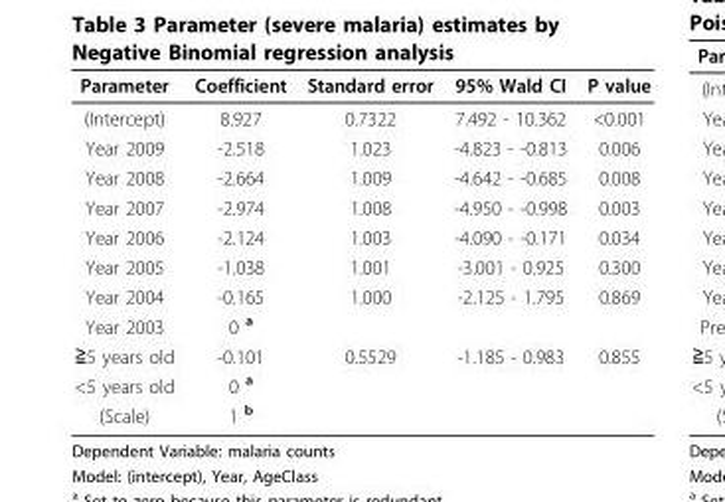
<table><thead><tr><td>Parameter</td><td>Coefficient</td><td>Standard error</td><td>95% Wald CI</td><td>P value</td></tr></thead><tbody><tr><td>(Intercept)</td><td>8.927</td><td>0.7322</td><td>7.492 - 10.362</td><td>&lt;0.001</td></tr><tr><td>Year 2009</td><td>-2.518</td><td>1.023</td><td>-4.823 - -0.813</td><td>0.006</td></tr><tr><td>Year 2008</td><td>-2.664</td><td>1.009</td><td>-4.642 - -0.685</td><td>0.008</td></tr><tr><td>Year 2007</td><td>-2.974</td><td>1.008</td><td>-4.950 - -0.998</td><td>0.003</td></tr><tr><td>Year 2006</td><td>-2.124</td><td>1.003</td><td>-4.090 - -0.171</td><td>0.034</td></tr><tr><td>Year 2005</td><td>-1.038</td><td>1.001</td><td>-3.001 - 0.925</td><td>0.300</td></tr><tr><td>Year 2004</td><td>-0.165</td><td>1.000</td><td>-2.125 - 1.795</td><td>0.869</td></tr><tr><td>Year 2003</td><td>0 <sup>a</sup></td><td></td><td></td><td></td></tr><tr><td>≧5 years old</td><td>-0.101</td><td>0.5529</td><td>-1.185 - 0.983</td><td>0.855</td></tr><tr><td>&lt;5 years old</td><td>0 <sup>a</sup></td><td></td><td></td><td></td></tr><tr><td>(Scale)</td><td>1 <sup>b</sup></td><td></td><td></td><td></td></tr></tbody></table>